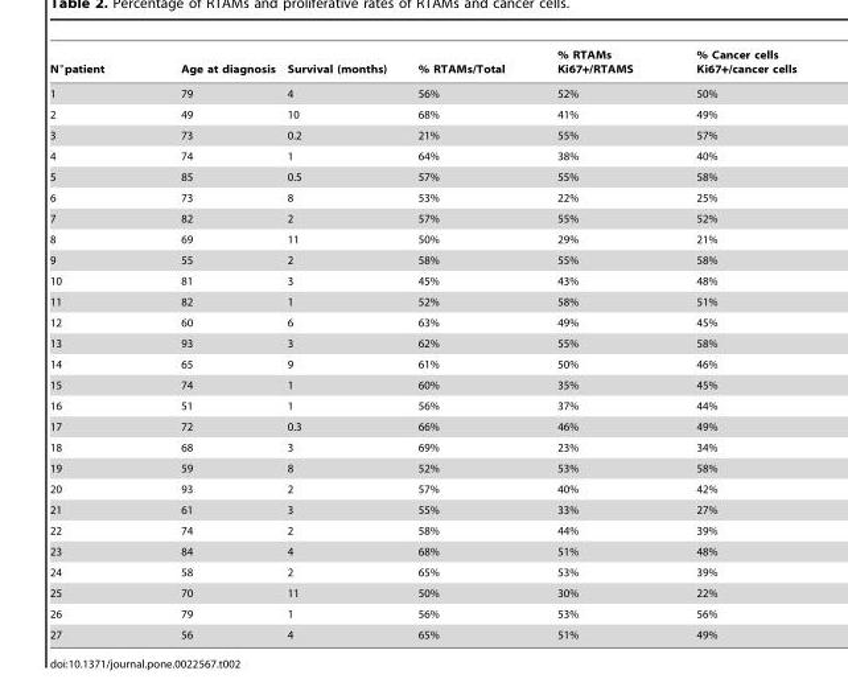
<table><thead><tr><td>N°patient</td><td>Age at diagnosis</td><td>Survival (months)</td><td>% RTAMs/Total</td><td>% RTAMs Ki67+/RTAMS</td><td>% Cancer cells Ki67+/cancer cells</td></tr></thead><tbody><tr><td>1</td><td>79</td><td>4</td><td>56%</td><td>52%</td><td>50%</td></tr><tr><td>2</td><td>49</td><td>10</td><td>68%</td><td>41%</td><td>49%</td></tr><tr><td>3</td><td>73</td><td>0.2</td><td>21%</td><td>55%</td><td>57%</td></tr><tr><td>4</td><td>74</td><td>1</td><td>64%</td><td>38%</td><td>40%</td></tr><tr><td>5</td><td>85</td><td>0.5</td><td>57%</td><td>55%</td><td>58%</td></tr><tr><td>6</td><td>73</td><td>8</td><td>53%</td><td>22%</td><td>25%</td></tr><tr><td>7</td><td>82</td><td>2</td><td>57%</td><td>55%</td><td>52%</td></tr><tr><td>8</td><td>69</td><td>11</td><td>50%</td><td>29%</td><td>21%</td></tr><tr><td>9</td><td>55</td><td>2</td><td>58%</td><td>55%</td><td>58%</td></tr><tr><td>10</td><td>81</td><td>3</td><td>45%</td><td>43%</td><td>48%</td></tr><tr><td>11</td><td>82</td><td>1</td><td>52%</td><td>58%</td><td>51%</td></tr><tr><td>12</td><td>60</td><td>6</td><td>63%</td><td>49%</td><td>45%</td></tr><tr><td>13</td><td>93</td><td>3</td><td>62%</td><td>55%</td><td>58%</td></tr><tr><td>14</td><td>65</td><td>9</td><td>61%</td><td>50%</td><td>46%</td></tr><tr><td>15</td><td>74</td><td>1</td><td>60%</td><td>35%</td><td>45%</td></tr><tr><td>16</td><td>51</td><td>1</td><td>56%</td><td>37%</td><td>44%</td></tr><tr><td>17</td><td>72</td><td>0.3</td><td>66%</td><td>46%</td><td>49%</td></tr><tr><td>18</td><td>68</td><td>3</td><td>69%</td><td>23%</td><td>34%</td></tr><tr><td>19</td><td>59</td><td>8</td><td>52%</td><td>53%</td><td>58%</td></tr><tr><td>20</td><td>93</td><td>2</td><td>57%</td><td>40%</td><td>42%</td></tr><tr><td>21</td><td>61</td><td>3</td><td>55%</td><td>33%</td><td>27%</td></tr><tr><td>22</td><td>74</td><td>2</td><td>58%</td><td>44%</td><td>39%</td></tr><tr><td>23</td><td>84</td><td>4</td><td>68%</td><td>51%</td><td>48%</td></tr><tr><td>24</td><td>58</td><td>2</td><td>65%</td><td>53%</td><td>39%</td></tr><tr><td>25</td><td>70</td><td>11</td><td>50%</td><td>30%</td><td>22%</td></tr><tr><td>26</td><td>79</td><td>1</td><td>56%</td><td>53%</td><td>56%</td></tr><tr><td>27</td><td>56</td><td>4</td><td>65%</td><td>51%</td><td>49%</td></tr></tbody></table>